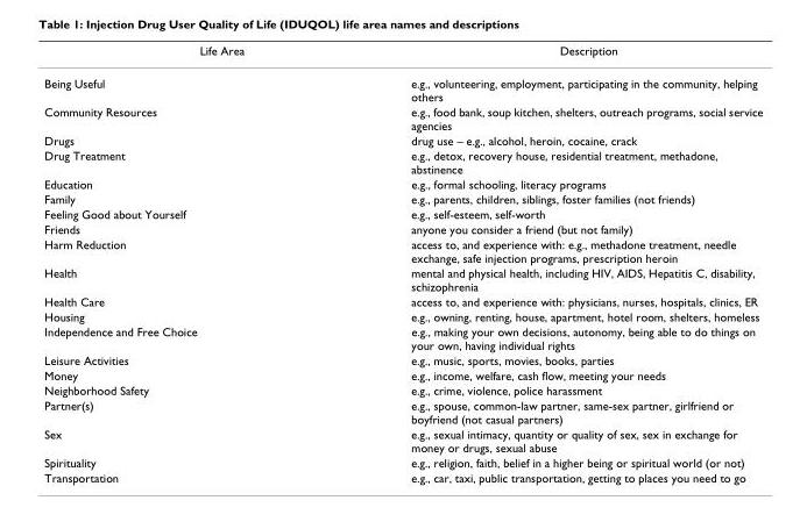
<table><thead><tr><td>Life Area</td><td>Description</td></tr></thead><tbody><tr><td>Being Useful</td><td>e.g., volunteering, employment, participating in the community, helping others</td></tr><tr><td>Community Resources</td><td>e.g., food bank, soup kitchen, shelters, outreach programs, social service agencies</td></tr><tr><td>Drugs</td><td>drug use – e.g., alcohol, heroin, cocaine, crack</td></tr><tr><td>Drug Treatment</td><td>e.g., detox, recovery house, residential treatment, methadone, abstinence</td></tr><tr><td>Education</td><td>e.g., formal schooling, literacy programs</td></tr><tr><td>Family</td><td>e.g., parents, children, siblings, foster families (not friends)</td></tr><tr><td>Feeling Good about Yourself</td><td>e.g., self-esteem, self-worth</td></tr><tr><td>Friends</td><td>anyone you consider a friend (but not family)</td></tr><tr><td>Harm Reduction</td><td>access to, and experience with: e.g., methadone treatment, needle exchange, safe injection programs, prescription heroin</td></tr><tr><td>Health</td><td>mental and physical health, including HIV, AIDS, Hepatitis C, disability, schizophrenia</td></tr><tr><td>Health Care</td><td>access to, and experience with: physicians, nurses, hospitals, clinics, ER</td></tr><tr><td>Housing</td><td>e.g., owning, renting, house, apartment, hotel room, shelters, homeless</td></tr><tr><td>Independence and Free Choice</td><td>e.g., making your own decisions, autonomy, being able to do things on your own, having individual rights</td></tr><tr><td>Leisure Activities</td><td>e.g., music, sports, movies, books, parties</td></tr><tr><td>Money</td><td>e.g., income, welfare, cash flow, meeting your needs</td></tr><tr><td>Neighborhood Safety</td><td>e.g., crime, violence, police harassment</td></tr><tr><td>Partner(s)</td><td>e.g., spouse, common-law partner, same-sex partner, girlfriend or boyfriend (not casual partners)</td></tr><tr><td>Sex</td><td>e.g., sexual intimacy, quantity or quality of sex, sex in exchange for money or drugs, sexual abuse</td></tr><tr><td>Spirituality</td><td>e.g., religion, faith, belief in a higher being or spiritual world (or not)</td></tr><tr><td>Transportation</td><td>e.g., car, taxi, public transportation, getting to places you need to go</td></tr></tbody></table>